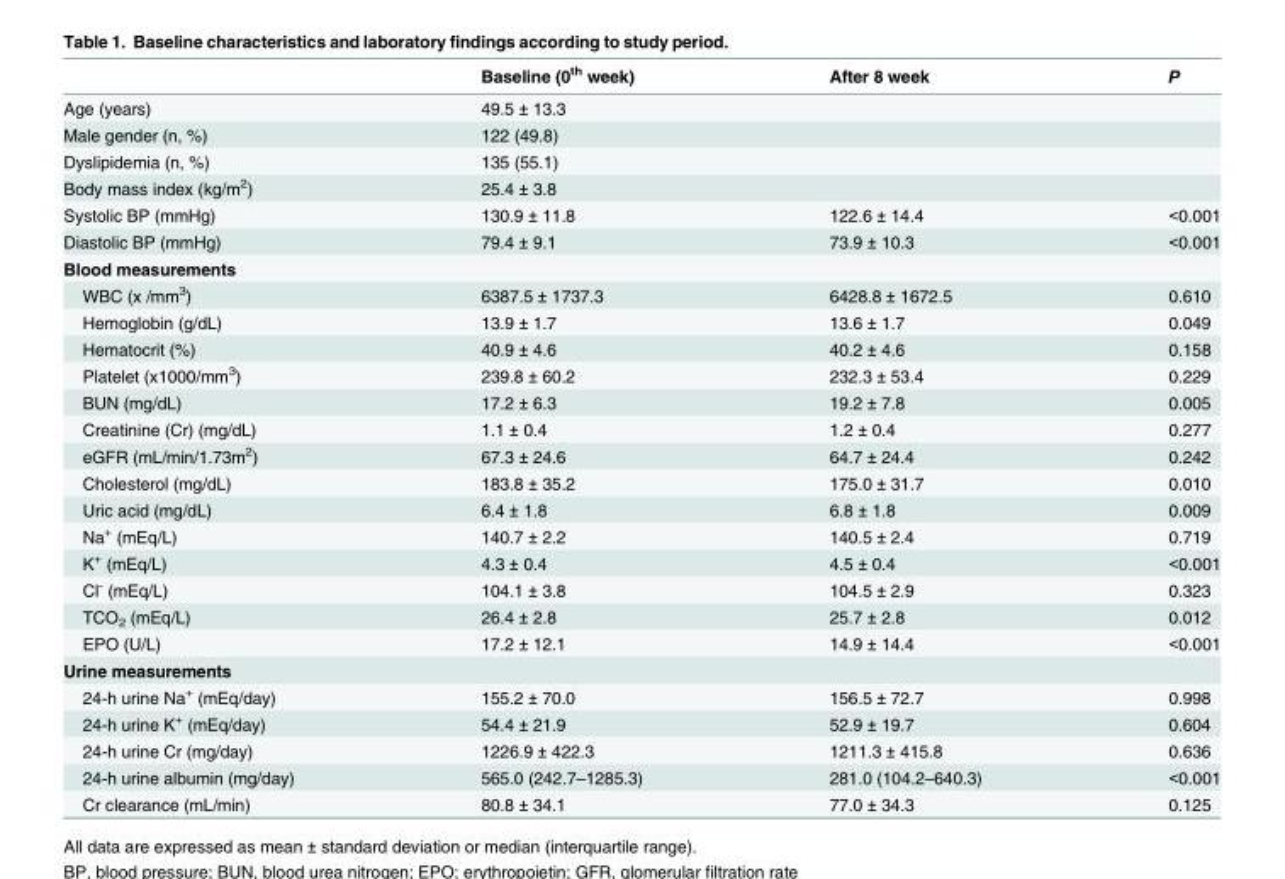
<table><thead><tr><td></td><td>Baseline (0<sup>th</sup> week)</td><td>After 8 week</td><td>P</td></tr></thead><tbody><tr><td>Age (years)</td><td>49.5 ± 13.3</td><td></td><td></td></tr><tr><td>Male gender (n, %)</td><td>122 (49.8)</td><td></td><td></td></tr><tr><td>Dyslipidemia (n, %)</td><td>135 (55.1)</td><td></td><td></td></tr><tr><td>Body mass index (kg/m<sup>2</sup>)</td><td>25.4 ± 3.8</td><td></td><td></td></tr><tr><td>Systolic BP (mmHg)</td><td>130.9 ± 11.8</td><td>122.6 ± 14.4</td><td>&lt;0.001</td></tr><tr><td>Diastolic BP (mmHg)</td><td>79.4 ± 9.1</td><td>73.9 ± 10.3</td><td>&lt;0.001</td></tr><tr><td colspan="4">Blood measurements</td></tr><tr><td>WBC (x /mm<sup>3</sup>)</td><td>6387.5 ± 1737.3</td><td>6428.8 ± 1672.5</td><td>0.610</td></tr><tr><td>Hemoglobin (g/dL)</td><td>13.9 ± 1.7</td><td>13.6 ± 1.7</td><td>0.049</td></tr><tr><td>Hematocrit (%)</td><td>40.9 ± 4.6</td><td>40.2 ± 4.6</td><td>0.158</td></tr><tr><td>Platelet (x1000/mm<sup>3</sup>)</td><td>239.8 ± 60.2</td><td>232.3 ± 53.4</td><td>0.229</td></tr><tr><td>BUN (mg/dL)</td><td>17.2 ± 6.3</td><td>19.2 ± 7.8</td><td>0.005</td></tr><tr><td>Creatinine (Cr) (mg/dL)</td><td>1.1 ± 0.4</td><td>1.2 ± 0.4</td><td>0.277</td></tr><tr><td>eGFR (mL/min/1.73m<sup>2</sup>)</td><td>67.3 ± 24.6</td><td>64.7 ± 24.4</td><td>0.242</td></tr><tr><td>Cholesterol (mg/dL)</td><td>183.8 ± 35.2</td><td>175.0 ± 31.7</td><td>0.010</td></tr><tr><td>Uric acid (mg/dL)</td><td>6.4 ± 1.8</td><td>6.8 ± 1.8</td><td>0.009</td></tr><tr><td>Na<sup>+</sup> (mEq/L)</td><td>140.7 ± 2.2</td><td>140.5 ± 2.4</td><td>0.719</td></tr><tr><td>K<sup>+</sup> (mEq/L)</td><td>4.3 ± 0.4</td><td>4.5 ± 0.4</td><td>&lt;0.001</td></tr><tr><td>Cl<sup>-</sup> (mEq/L)</td><td>104.1 ± 3.8</td><td>104.5 ± 2.9</td><td>0.323</td></tr><tr><td>TCO<sub>2</sub> (mEq/L)</td><td>26.4 ± 2.8</td><td>25.7 ± 2.8</td><td>0.012</td></tr><tr><td>EPO (U/L)</td><td>17.2 ± 12.1</td><td>14.9 ± 14.4</td><td>&lt;0.001</td></tr><tr><td colspan="4">Urine measurements</td></tr><tr><td>24-h urine Na<sup>+</sup> (mEq/day)</td><td>155.2 ± 70.0</td><td>156.5 ± 72.7</td><td>0.998</td></tr><tr><td>24-h urine K<sup>+</sup> (mEq/day)</td><td>54.4 ± 21.9</td><td>52.9 ± 19.7</td><td>0.604</td></tr><tr><td>24-h urine Cr (mg/day)</td><td>1226.9 ± 422.3</td><td>1211.3 ± 415.8</td><td>0.636</td></tr><tr><td>24-h urine albumin (mg/day)</td><td>565.0 (242.7–1285.3)</td><td>281.0 (104.2–640.3)</td><td>&lt;0.001</td></tr><tr><td>Cr clearance (mL/min)</td><td>80.8 ± 34.1</td><td>77.0 ± 34.3</td><td>0.125</td></tr></tbody></table>